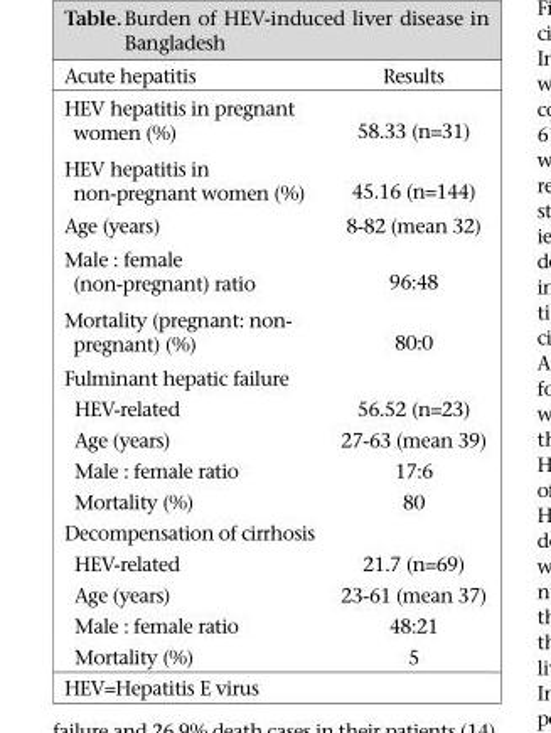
<table><thead><tr><td>Acute hepatitis</td><td>Results</td></tr></thead><tbody><tr><td>HEV hepatitis in pregnant women (%)</td><td>58.33 (n=31)</td></tr><tr><td>HEV hepatitis in non-pregnant women (%)</td><td>45.16 (n=144)</td></tr><tr><td>Age (years)</td><td>8-82 (mean 32)</td></tr><tr><td>Male : female (non-pregnant) ratio</td><td>96:48</td></tr><tr><td>Mortality (pregnant: non- pregnant) (%)</td><td>80:0</td></tr><tr><td colspan="2">Fulminant hepatic failure</td></tr><tr><td>HEV-related</td><td>56.52 (n=23)</td></tr><tr><td>Age (years)</td><td>27-63 (mean 39)</td></tr><tr><td>Male : female ratio</td><td>17:6</td></tr><tr><td>Mortality (%)</td><td>80</td></tr><tr><td colspan="2">Decompensation of cirrhosis</td></tr><tr><td>HEV-related</td><td>21.7 (n=69)</td></tr><tr><td>Age (years)</td><td>23-61 (mean 37)</td></tr><tr><td>Male : female ratio</td><td>48:21</td></tr><tr><td>Mortality (%)</td><td>5</td></tr></tbody></table>